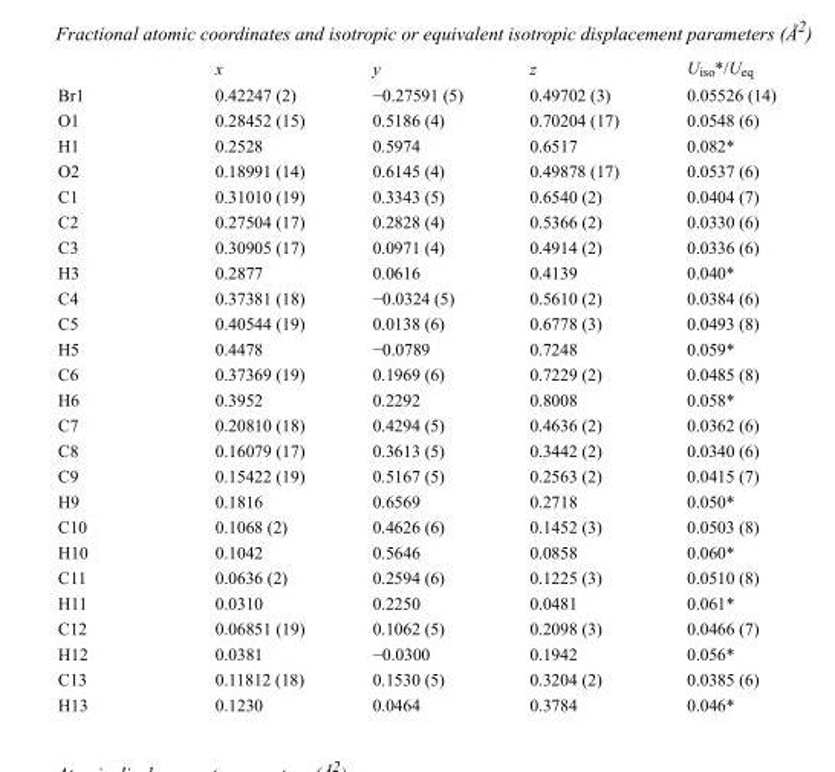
<table><thead><tr><td></td><td>x</td><td>y</td><td>z</td><td>U<sub>iso</sub>*/U<sub>eq</sub></td></tr></thead><tbody><tr><td>Br1</td><td>0.42247 (2)</td><td>−0.27591 (5)</td><td>0.49702 (3)</td><td>0.05526 (14)</td></tr><tr><td>O1</td><td>0.28452 (15)</td><td>0.5186 (4)</td><td>0.70204 (17)</td><td>0.0548 (6)</td></tr><tr><td>H1</td><td>0.2528</td><td>0.5974</td><td>0.6517</td><td>0.082*</td></tr><tr><td>O2</td><td>0.18991 (14)</td><td>0.6145 (4)</td><td>0.49878 (17)</td><td>0.0537 (6)</td></tr><tr><td>C1</td><td>0.31010 (19)</td><td>0.3343 (5)</td><td>0.6540 (2)</td><td>0.0404 (7)</td></tr><tr><td>C2</td><td>0.27504 (17)</td><td>0.2828 (4)</td><td>0.5366 (2)</td><td>0.0330 (6)</td></tr><tr><td>C3</td><td>0.30905 (17)</td><td>0.0971 (4)</td><td>0.4914 (2)</td><td>0.0336 (6)</td></tr><tr><td>H3</td><td>0.2877</td><td>0.0616</td><td>0.4139</td><td>0.040*</td></tr><tr><td>C4</td><td>0.37381 (18)</td><td>−0.0324 (5)</td><td>0.5610 (2)</td><td>0.0384 (6)</td></tr><tr><td>C5</td><td>0.40544 (19)</td><td>0.0138 (6)</td><td>0.6778 (3)</td><td>0.0493 (8)</td></tr><tr><td>H5</td><td>0.4478</td><td>−0.0789</td><td>0.7248</td><td>0.059*</td></tr><tr><td>C6</td><td>0.37369 (19)</td><td>0.1969 (6)</td><td>0.7229 (2)</td><td>0.0485 (8)</td></tr><tr><td>H6</td><td>0.3952</td><td>0.2292</td><td>0.8008</td><td>0.058*</td></tr><tr><td>C7</td><td>0.20810 (18)</td><td>0.4294 (5)</td><td>0.4636 (2)</td><td>0.0362 (6)</td></tr><tr><td>C8</td><td>0.16079 (17)</td><td>0.3613 (5)</td><td>0.3442 (2)</td><td>0.0340 (6)</td></tr><tr><td>C9</td><td>0.15422 (19)</td><td>0.5167 (5)</td><td>0.2563 (2)</td><td>0.0415 (7)</td></tr><tr><td>H9</td><td>0.1816</td><td>0.6569</td><td>0.2718</td><td>0.050*</td></tr><tr><td>C10</td><td>0.1068 (2)</td><td>0.4626 (6)</td><td>0.1452 (3)</td><td>0.0503 (8)</td></tr><tr><td>H10</td><td>0.1042</td><td>0.5646</td><td>0.0858</td><td>0.060*</td></tr><tr><td>C11</td><td>0.0636 (2)</td><td>0.2594 (6)</td><td>0.1225 (3)</td><td>0.0510 (8)</td></tr><tr><td>H11</td><td>0.0310</td><td>0.2250</td><td>0.0481</td><td>0.061*</td></tr><tr><td>C12</td><td>0.06851 (19)</td><td>0.1062 (5)</td><td>0.2098 (3)</td><td>0.0466 (7)</td></tr><tr><td>H12</td><td>0.0381</td><td>−0.0300</td><td>0.1942</td><td>0.056*</td></tr><tr><td>C13</td><td>0.11812 (18)</td><td>0.1530 (5)</td><td>0.3204 (2)</td><td>0.0385 (6)</td></tr><tr><td>H13</td><td>0.1230</td><td>0.0464</td><td>0.3784</td><td>0.046*</td></tr></tbody></table>